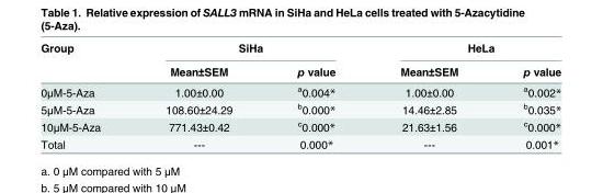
<table><thead><tr><td rowspan="2">Group</td><td colspan="2">SiHa</td><td colspan="2">HeLa</td></tr><tr><td>Mean±SEM</td><td>p value</td><td>Mean±SEM</td><td>p value</td></tr></thead><tbody><tr><td>0μM-5-Aza</td><td>1.00±0.00</td><td><sup>a</sup>0.004*</td><td>1.00±0.00</td><td><sup>a</sup>0.002*</td></tr><tr><td>5μM-5-Aza</td><td>108.60±24.29</td><td><sup>b</sup>0.000*</td><td>14.46±2.85</td><td><sup>b</sup>0.035*</td></tr><tr><td>10μM-5-Aza</td><td>771.43±0.42</td><td><sup>c</sup>0.000*</td><td>21.63±1.56</td><td><sup>c</sup>0.000*</td></tr><tr><td>Total</td><td>---</td><td>0.000*</td><td>---</td><td>0.001*</td></tr></tbody></table>